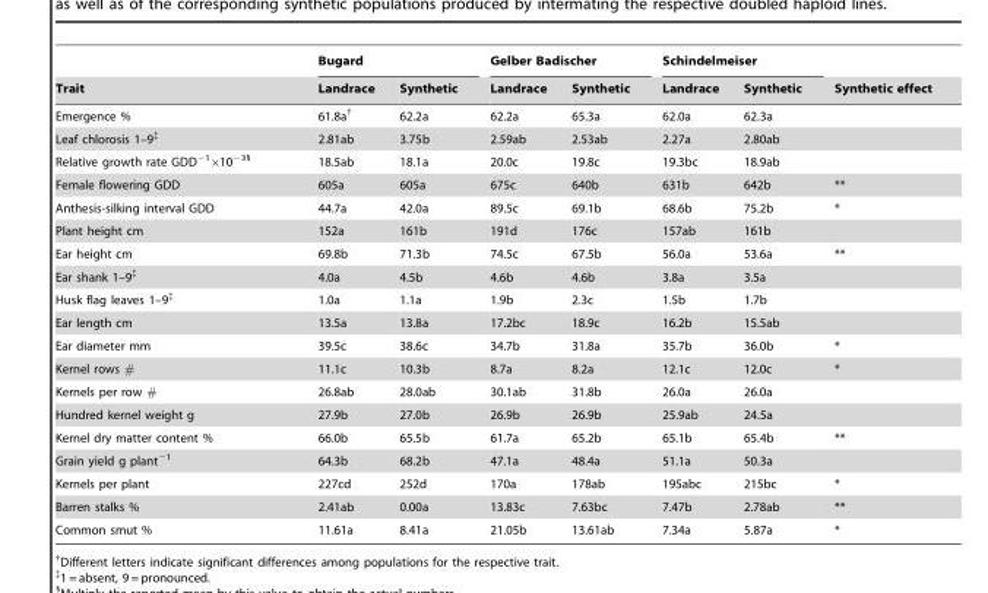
<table><thead><tr><td rowspan="2">Trait</td><td colspan="2">Bugard</td><td colspan="2">Gelber Badischer</td><td colspan="2">Schindelmeiser</td><td rowspan="2">Synthetic effect</td></tr><tr><td>Landrace</td><td>Synthetic</td><td>Landrace</td><td>Synthetic</td><td>Landrace</td><td>Synthetic</td></tr></thead><tbody><tr><td>Emergence %</td><td>61.8a†</td><td>62.2a</td><td>62.2a</td><td>65.3a</td><td>62.0a</td><td>62.3a</td><td></td></tr><tr><td>Leaf chlorosis 1–9‡</td><td>2.81ab</td><td>3.75b</td><td>2.59ab</td><td>2.53ab</td><td>2.27a</td><td>2.80ab</td><td></td></tr><tr><td>Relative growth rate GDD<sup>−1</sup>×10<sup>−3</sup>§</td><td>18.5ab</td><td>18.1a</td><td>20.0c</td><td>19.8c</td><td>19.3bc</td><td>18.9ab</td><td></td></tr><tr><td>Female flowering GDD</td><td>605a</td><td>605a</td><td>675c</td><td>640b</td><td>631b</td><td>642b</td><td>**</td></tr><tr><td>Anthesis-silking interval GDD</td><td>44.7a</td><td>42.0a</td><td>89.5c</td><td>69.1b</td><td>68.6b</td><td>75.2b</td><td>*</td></tr><tr><td>Plant height cm</td><td>152a</td><td>161b</td><td>191d</td><td>176c</td><td>157ab</td><td>161b</td><td></td></tr><tr><td>Ear height cm</td><td>69.8b</td><td>71.3b</td><td>74.5c</td><td>67.5b</td><td>56.0a</td><td>53.6a</td><td>**</td></tr><tr><td>Ear shank 1–9‡</td><td>4.0a</td><td>4.5b</td><td>4.6b</td><td>4.6b</td><td>3.8a</td><td>3.5a</td><td></td></tr><tr><td>Husk flag leaves 1–9‡</td><td>1.0a</td><td>1.1a</td><td>1.9b</td><td>2.3c</td><td>1.5b</td><td>1.7b</td><td></td></tr><tr><td>Ear length cm</td><td>13.5a</td><td>13.8a</td><td>17.2bc</td><td>18.9c</td><td>16.2b</td><td>15.5ab</td><td></td></tr><tr><td>Ear diameter mm</td><td>39.5c</td><td>38.6c</td><td>34.7b</td><td>31.8a</td><td>35.7b</td><td>36.0b</td><td>*</td></tr><tr><td>Kernel rows #</td><td>11.1c</td><td>10.3b</td><td>8.7a</td><td>8.2a</td><td>12.1c</td><td>12.0c</td><td>*</td></tr><tr><td>Kernels per row #</td><td>26.8ab</td><td>28.0ab</td><td>30.1ab</td><td>31.8b</td><td>26.0a</td><td>26.0a</td><td></td></tr><tr><td>Hundred kernel weight g</td><td>27.9b</td><td>27.0b</td><td>26.9b</td><td>26.9b</td><td>25.9ab</td><td>24.5a</td><td></td></tr><tr><td>Kernel dry matter content %</td><td>66.0b</td><td>65.5b</td><td>61.7a</td><td>65.2b</td><td>65.1b</td><td>65.4b</td><td>**</td></tr><tr><td>Grain yield g plant<sup>−1</sup></td><td>64.3b</td><td>68.2b</td><td>47.1a</td><td>48.4a</td><td>51.1a</td><td>50.3a</td><td></td></tr><tr><td>Kernels per plant</td><td>227cd</td><td>252d</td><td>170a</td><td>178ab</td><td>195abc</td><td>215bc</td><td>*</td></tr><tr><td>Barren stalks %</td><td>2.41ab</td><td>0.00a</td><td>13.83c</td><td>7.63bc</td><td>7.47b</td><td>2.78ab</td><td>**</td></tr><tr><td>Common smut %</td><td>11.61a</td><td>8.41a</td><td>21.05b</td><td>13.61ab</td><td>7.34a</td><td>5.87a</td><td>*</td></tr></tbody></table>